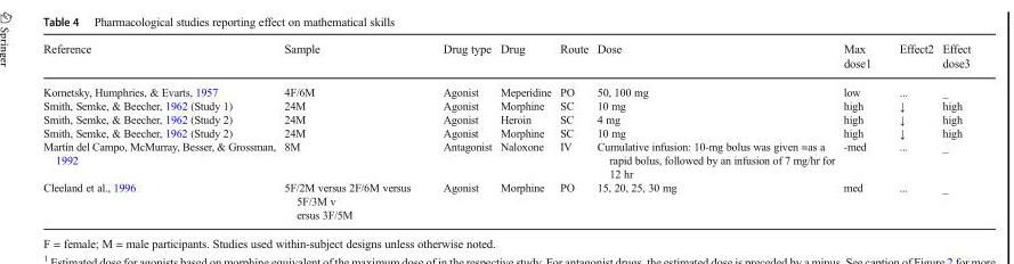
<table><thead><tr><td>Reference</td><td>Sample</td><td>Drug type</td><td>Drug</td><td>Route</td><td>Dose</td><td>Max dose1</td><td>Effect2</td><td>Effect dose3</td></tr></thead><tbody><tr><td>Kornetsky, Humphries, &amp; Evarts, 1957</td><td>4F/6M</td><td>Agonist</td><td>Meperidine</td><td>PO</td><td>50, 100 mg</td><td>low</td><td>...</td><td>_</td></tr><tr><td>Smith, Semke, &amp; Beecher, 1962 (Study 1)</td><td>24M</td><td>Agonist</td><td>Morphine</td><td>SC</td><td>10 mg</td><td>high</td><td>↓</td><td>high</td></tr><tr><td>Smith, Semke, &amp; Beecher, 1962 (Study 2)</td><td>24M</td><td>Agonist</td><td>Heroin</td><td>SC</td><td>4 mg</td><td>high</td><td>↓</td><td>high</td></tr><tr><td>Smith, Semke, &amp; Beecher, 1962 (Study 2)</td><td>24M</td><td>Agonist</td><td>Morphine</td><td>SC</td><td>10 mg</td><td>high</td><td>↓</td><td>high</td></tr><tr><td>Martín del Campo, McMurray, Besser, &amp; Grossman, 1992</td><td>8M</td><td>Antagonist</td><td>Naloxone</td><td>IV</td><td>Cumulative infusion: 10-mg bolus was given =as a rapid bolus, followed by an infusion of 7 mg/hr for 12 hr</td><td>-med</td><td>...</td><td>_</td></tr><tr><td>Cleeland et al., 1996</td><td>5F/2M versus 2F/6M versus 5F/3M v ersus 3F/5M</td><td>Agonist</td><td>Morphine</td><td>PO</td><td>15, 20, 25, 30 mg</td><td>med</td><td>...</td><td>_</td></tr></tbody></table>